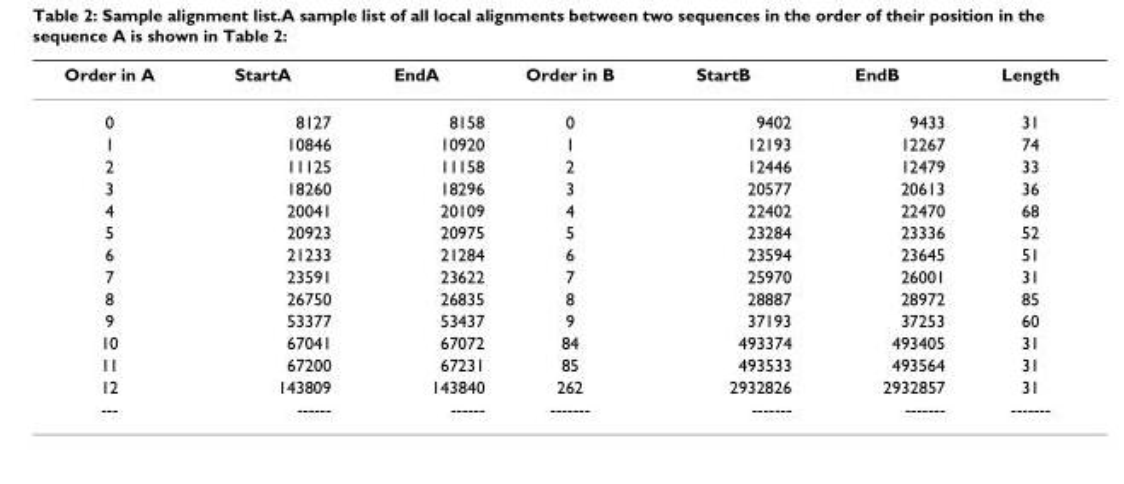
<table><thead><tr><td>Order in A</td><td>StartA</td><td>EndA</td><td>Order in B</td><td>StartB</td><td>EndB</td><td>Length</td></tr></thead><tbody><tr><td>0</td><td>8127</td><td>8158</td><td>0</td><td>9402</td><td>9433</td><td>31</td></tr><tr><td>1</td><td>10846</td><td>10920</td><td>1</td><td>12193</td><td>12267</td><td>74</td></tr><tr><td>2</td><td>11125</td><td>11158</td><td>2</td><td>12446</td><td>12479</td><td>33</td></tr><tr><td>3</td><td>18260</td><td>18296</td><td>3</td><td>20577</td><td>20613</td><td>36</td></tr><tr><td>4</td><td>20041</td><td>20109</td><td>4</td><td>22402</td><td>22470</td><td>68</td></tr><tr><td>5</td><td>20923</td><td>20975</td><td>5</td><td>23284</td><td>23336</td><td>52</td></tr><tr><td>6</td><td>21233</td><td>21284</td><td>6</td><td>23594</td><td>23645</td><td>51</td></tr><tr><td>7</td><td>23591</td><td>23622</td><td>7</td><td>25970</td><td>26001</td><td>31</td></tr><tr><td>8</td><td>26750</td><td>26835</td><td>8</td><td>28887</td><td>28972</td><td>85</td></tr><tr><td>9</td><td>53377</td><td>53437</td><td>9</td><td>37193</td><td>37253</td><td>60</td></tr><tr><td>10</td><td>67041</td><td>67072</td><td>84</td><td>493374</td><td>493405</td><td>31</td></tr><tr><td>11</td><td>67200</td><td>67231</td><td>85</td><td>493533</td><td>493564</td><td>31</td></tr><tr><td>12</td><td>143809</td><td>143840</td><td>262</td><td>2932826</td><td>2932857</td><td>31</td></tr><tr><td>---</td><td>------</td><td>------</td><td>-------</td><td>-------</td><td>-------</td><td>-------</td></tr></tbody></table>